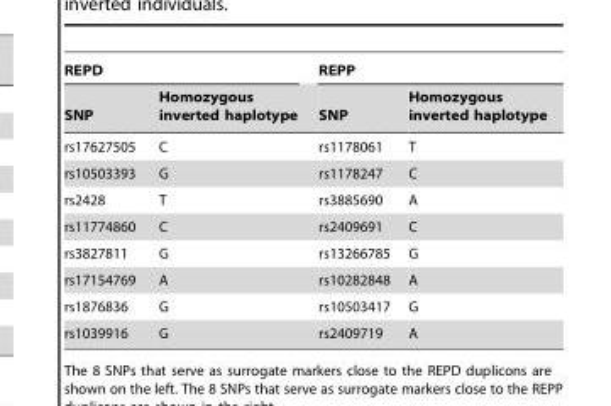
<table><thead><tr><td rowspan="2">REPD SNP</td><td rowspan="2">Homozygous inverted haplotype</td><td rowspan="2">REPP SNP</td><td rowspan="2">Homozygous inverted haplotype</td></tr><tr></tr></thead><tbody><tr><td>rs17627505</td><td>C</td><td>rs1178061</td><td>T</td></tr><tr><td>rs10503393</td><td>G</td><td>rs1178247</td><td>C</td></tr><tr><td>rs2428</td><td>T</td><td>rs3885690</td><td>A</td></tr><tr><td>rs11774860</td><td>C</td><td>rs2409691</td><td>C</td></tr><tr><td>rs3827811</td><td>G</td><td>rs13266785</td><td>G</td></tr><tr><td>rs17154769</td><td>A</td><td>rs10282848</td><td>A</td></tr><tr><td>rs1876836</td><td>G</td><td>rs10503417</td><td>G</td></tr><tr><td>rs1039916</td><td>G</td><td>rs2409719</td><td>A</td></tr></tbody></table>